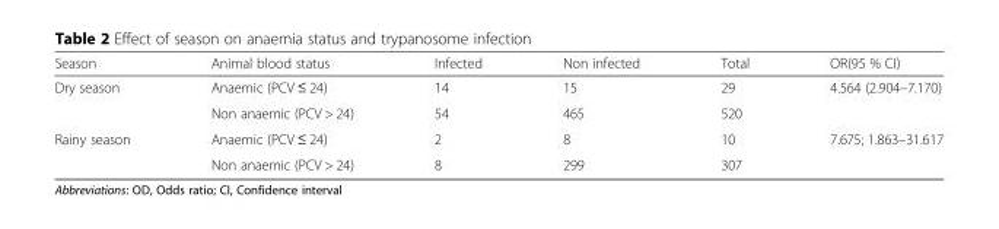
<table><thead><tr><td>Season</td><td>Animal blood status</td><td>Infected</td><td>Non infected</td><td>Total</td><td>OR(95 % CI)</td></tr></thead><tbody><tr><td rowspan="2">Dry season</td><td>Anaemic (PCV ≤ 24)</td><td>14</td><td>15</td><td>29</td><td rowspan="2">4.564 (2.904–7.170)</td></tr><tr><td>Non anaemic (PCV &gt; 24)</td><td>54</td><td>465</td><td>520</td></tr><tr><td rowspan="2">Rainy season</td><td>Anaemic (PCV ≤ 24)</td><td>2</td><td>8</td><td>10</td><td rowspan="2">7.675; 1.863–31.617</td></tr><tr><td>Non anaemic (PCV &gt; 24)</td><td>8</td><td>299</td><td>307</td></tr></tbody></table>